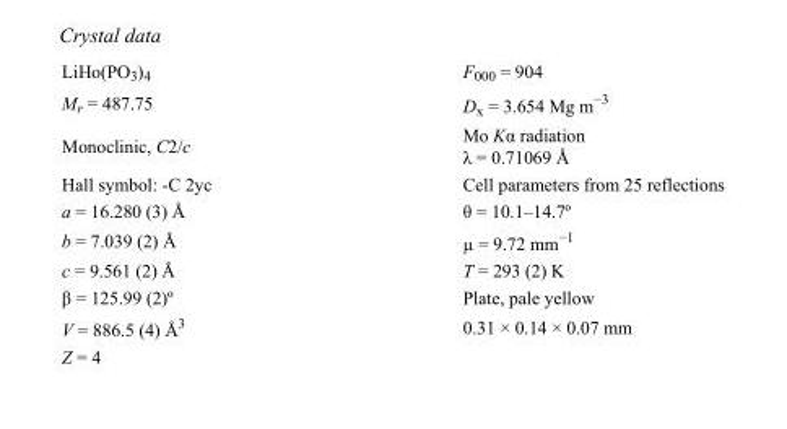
<table><tbody><tr><td>LiHo(PO<sub>3</sub>)<sub>4</sub></td><td>F000 = 904</td></tr><tr><td>M<sub>r</sub> = 487.75</td><td>D<sub>x</sub> = 3.654 Mg m<sup>−3</sup></td></tr><tr><td>Monoclinic, C2/c</td><td>Mo Kα radiation λ = 0.71069 Å</td></tr><tr><td>Hall symbol: -C 2yc</td><td>Cell parameters from 25 reflections</td></tr><tr><td>a = 16.280 (3) Å</td><td>θ = 10.1–14.7º</td></tr><tr><td>b = 7.039 (2) Å</td><td>µ = 9.72 mm<sup>−1</sup></td></tr><tr><td>c = 9.561 (2) Å</td><td>T = 293 (2) K</td></tr><tr><td>β = 125.99 (2)º</td><td>Plate, pale yellow</td></tr><tr><td>V = 886.5 (4) Å<sup>3</sup></td><td>0.31 × 0.14 × 0.07 mm</td></tr><tr><td>Z = 4</td><td></td></tr></tbody></table>